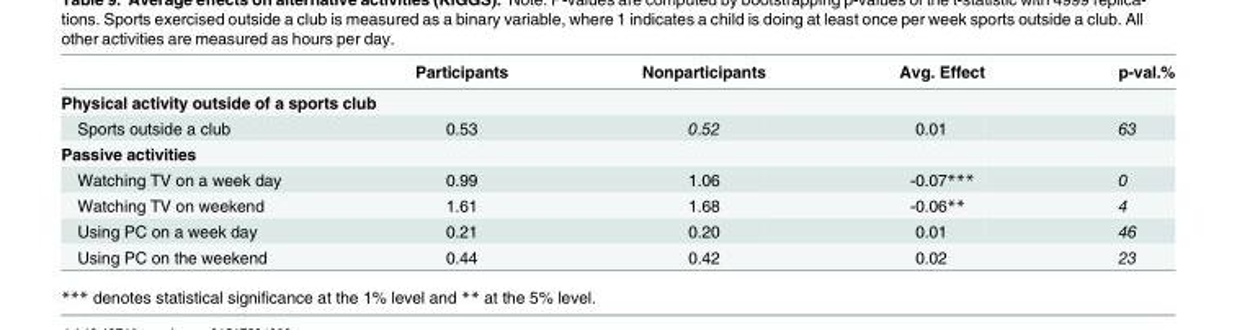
<table><thead><tr><td></td><td>Participants</td><td>Nonparticipants</td><td>Avg. Effect</td><td>p-val.%</td></tr></thead><tbody><tr><td colspan="5">Physical activity outside of a sports club</td></tr><tr><td>Sports outside a club</td><td>0.53</td><td>0.52</td><td>0.01</td><td>63</td></tr><tr><td colspan="5">Passive activities</td></tr><tr><td>Watching TV on a week day</td><td>0.99</td><td>1.06</td><td>-0.07***</td><td>0</td></tr><tr><td>Watching TV on weekend</td><td>1.61</td><td>1.68</td><td>-0.06**</td><td>4</td></tr><tr><td>Using PC on a week day</td><td>0.21</td><td>0.20</td><td>0.01</td><td>46</td></tr><tr><td>Using PC on the weekend</td><td>0.44</td><td>0.42</td><td>0.02</td><td>23</td></tr></tbody></table>